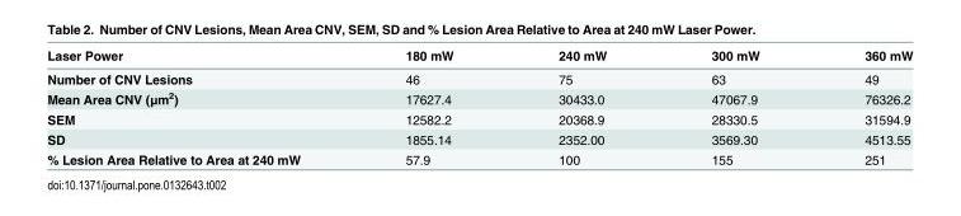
<table><thead><tr><td>Laser Power</td><td>180 mW</td><td>240 mW</td><td>300 mW</td><td>360 mW</td></tr></thead><tbody><tr><td>Number of CNV Lesions</td><td>46</td><td>75</td><td>63</td><td>49</td></tr><tr><td>Mean Area CNV (μm<sup>2</sup>)</td><td>17627.4</td><td>30433.0</td><td>47067.9</td><td>76326.2</td></tr><tr><td>SEM</td><td>12582.2</td><td>20368.9</td><td>28330.5</td><td>31594.9</td></tr><tr><td>SD</td><td>1855.14</td><td>2352.00</td><td>3569.30</td><td>4513.55</td></tr><tr><td>% Lesion Area Relative to Area at 240 mW</td><td>57.9</td><td>100</td><td>155</td><td>251</td></tr></tbody></table>